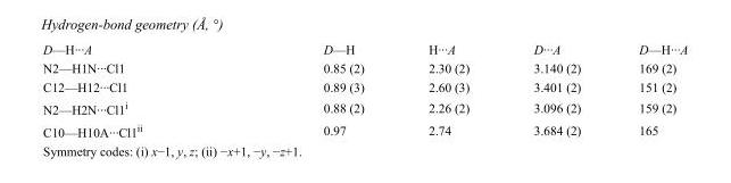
<table><tbody><tr><td>D—H···A</td><td>D—H</td><td>H···A</td><td>D···A</td><td>D—H···A</td></tr><tr><td>N2—H1N···Cl1</td><td>0.85 (2)</td><td>2.30 (2)</td><td>3.140 (2)</td><td>169 (2)</td></tr><tr><td>C12—H12···Cl1</td><td>0.89 (3)</td><td>2.60 (3)</td><td>3.401 (2)</td><td>151 (2)</td></tr><tr><td>N2—H2N···Cl1<sup>i</sup></td><td>0.88 (2)</td><td>2.26 (2)</td><td>3.096 (2)</td><td>159 (2)</td></tr><tr><td>C10—H10A···Cl1<sup>ii</sup></td><td>0.97</td><td>2.74</td><td>3.684 (2)</td><td>165</td></tr></tbody></table>